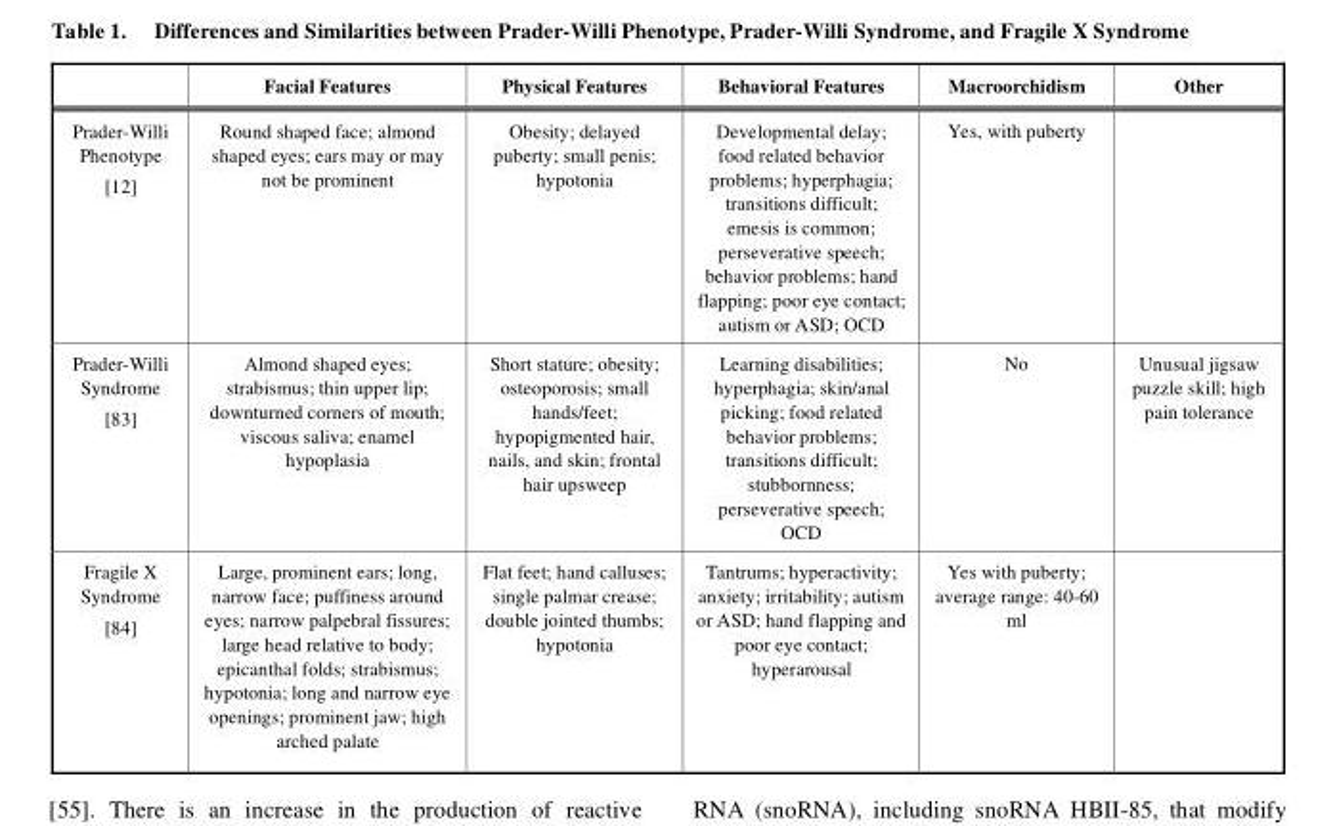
<table><thead><tr><td></td><td>Facial Features</td><td>Physical Features</td><td>Behavioral Features</td><td>Macroorchidism</td><td>Other</td></tr></thead><tbody><tr><td>Prader-Willi Phenotype [12]</td><td>Round shaped face; almond shaped eyes; ears may or may not be prominent</td><td>Obesity; delayed puberty; small penis; hypotonia</td><td>Developmental delay; food related behavior problems; hyperphagia; transitions difficult; emesis is common; perseverative speech; behavior problems; hand flapping; poor eye contact; autism or ASD; OCD</td><td>Yes, with puberty</td><td></td></tr><tr><td>Prader-Willi Syndrome [83]</td><td>Almond shaped eyes; strabismus; thin upper lip; downturned corners of mouth; viscous saliva; enamel hypoplasia</td><td>Short stature; obesity; osteoporosis; small hands/feet; hypopigmented hair, nails, and skin; frontal hair upsweep</td><td>Learning disabilities; hyperphagia; skin/anal picking; food related behavior problems; transitions difficult; stubbornness; perseverative speech; OCD</td><td>No</td><td>Unusual jigsaw puzzle skill; high pain tolerance</td></tr><tr><td>Fragile X Syndrome [84]</td><td>Large, prominent ears; long, narrow face; puffiness around eyes; narrow palpebral fissures; large head relative to body; epicanthal folds; strabismus; hypotonia; long and narrow eye openings; prominent jaw; high arched palate</td><td>Flat feet; hand calluses; single palmar crease; double jointed thumbs; hypotonia</td><td>Tantrums; hyperactivity; anxiety; irritability; autism or ASD; hand flapping and poor eye contact; hyperarousal</td><td>Yes with puberty; average range: 40-60 ml</td><td></td></tr></tbody></table>